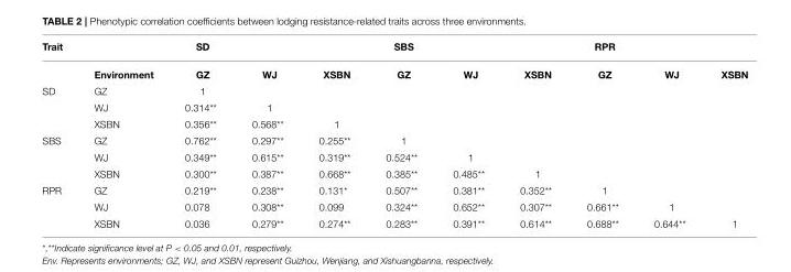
<table><thead><tr><td>Trait</td><td></td><td>SD</td><td></td><td></td><td>SBS</td><td></td><td></td><td>RPR</td><td></td><td></td></tr></thead><tbody><tr><td></td><td>Environment</td><td>GZ</td><td>WJ</td><td>XSBN</td><td>GZ</td><td>WJ</td><td>XSBN</td><td>GZ</td><td>WJ</td><td>XSBN</td></tr><tr><td rowspan="3">SD</td><td>GZ</td><td>1</td><td></td><td></td><td></td><td></td><td></td><td></td><td></td><td></td></tr><tr><td>WJ</td><td>0.314**</td><td>1</td><td></td><td></td><td></td><td></td><td></td><td></td><td></td></tr><tr><td>XSBN</td><td>0.356**</td><td>0.568**</td><td>1</td><td></td><td></td><td></td><td></td><td></td><td></td></tr><tr><td rowspan="3">SBS</td><td>GZ</td><td>0.762**</td><td>0.297**</td><td>0.255**</td><td>1</td><td></td><td></td><td></td><td></td><td></td></tr><tr><td>WJ</td><td>0.349**</td><td>0.615**</td><td>0.319**</td><td>0.524**</td><td>1</td><td></td><td></td><td></td><td></td></tr><tr><td>XSBN</td><td>0.300**</td><td>0.387**</td><td>0.668**</td><td>0.385**</td><td>0.485**</td><td>1</td><td></td><td></td><td></td></tr><tr><td rowspan="3">RPR</td><td>GZ</td><td>0.219**</td><td>0.238**</td><td>0.131*</td><td>0.507**</td><td>0.381**</td><td>0.352**</td><td>1</td><td></td><td></td></tr><tr><td>WJ</td><td>0.078</td><td>0.308**</td><td>0.099</td><td>0.324**</td><td>0.652**</td><td>0.307**</td><td>0.661**</td><td>1</td><td></td></tr><tr><td>XSBN</td><td>0.036</td><td>0.279**</td><td>0.274**</td><td>0.283**</td><td>0.391**</td><td>0.614**</td><td>0.688**</td><td>0.644**</td><td>1</td></tr></tbody></table>